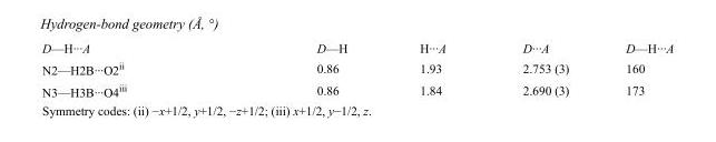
<table><tbody><tr><td>D—H···A</td><td>D—H</td><td>H···A</td><td>D···A</td><td>D—H···A</td></tr><tr><td>N2—H2B···O2<sup>ii</sup></td><td>0.86</td><td>1.93</td><td>2.753 (3)</td><td>160</td></tr><tr><td>N3—H3B···O4<sup>iii</sup></td><td>0.86</td><td>1.84</td><td>2.690 (3)</td><td>173</td></tr></tbody></table>